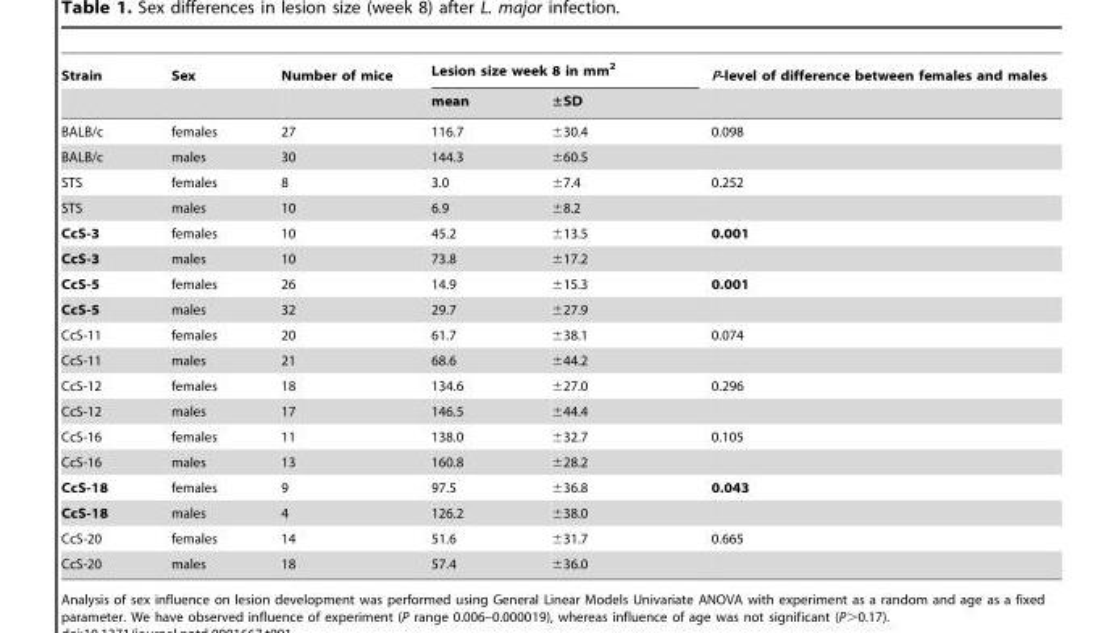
<table><thead><tr><td rowspan="2">Strain</td><td rowspan="2">Sex</td><td rowspan="2">Number of mice</td><td colspan="2">Lesion size week 8 in mm<sup>2</sup></td><td rowspan="2">P-level of difference between females and males</td></tr><tr><td>mean</td><td>±SD</td></tr></thead><tbody><tr><td>BALB/c</td><td>females</td><td>27</td><td>116.7</td><td>±30.4</td><td>0.098</td></tr><tr><td>BALB/c</td><td>males</td><td>30</td><td>144.3</td><td>±60.5</td><td></td></tr><tr><td>STS</td><td>females</td><td>8</td><td>3.0</td><td>±7.4</td><td>0.252</td></tr><tr><td>STS</td><td>males</td><td>10</td><td>6.9</td><td>±8.2</td><td></td></tr><tr><td>CcS-3</td><td>females</td><td>10</td><td>45.2</td><td>±13.5</td><td>0.001</td></tr><tr><td>CcS-3</td><td>males</td><td>10</td><td>73.8</td><td>±17.2</td><td></td></tr><tr><td>CcS-5</td><td>females</td><td>26</td><td>14.9</td><td>±15.3</td><td>0.001</td></tr><tr><td>CcS-5</td><td>males</td><td>32</td><td>29.7</td><td>±27.9</td><td></td></tr><tr><td>CcS-11</td><td>females</td><td>20</td><td>61.7</td><td>±38.1</td><td>0.074</td></tr><tr><td>CcS-11</td><td>males</td><td>21</td><td>68.6</td><td>±44.2</td><td></td></tr><tr><td>CcS-12</td><td>females</td><td>18</td><td>134.6</td><td>±27.0</td><td>0.296</td></tr><tr><td>CcS-12</td><td>males</td><td>17</td><td>146.5</td><td>±44.4</td><td></td></tr><tr><td>CcS-16</td><td>females</td><td>11</td><td>138.0</td><td>±32.7</td><td>0.105</td></tr><tr><td>CcS-16</td><td>males</td><td>13</td><td>160.8</td><td>±28.2</td><td></td></tr><tr><td>CcS-18</td><td>females</td><td>9</td><td>97.5</td><td>±36.8</td><td>0.043</td></tr><tr><td>CcS-18</td><td>males</td><td>4</td><td>126.2</td><td>±38.0</td><td></td></tr><tr><td>CcS-20</td><td>females</td><td>14</td><td>51.6</td><td>±31.7</td><td>0.665</td></tr><tr><td>CcS-20</td><td>males</td><td>18</td><td>57.4</td><td>±36.0</td><td></td></tr></tbody></table>